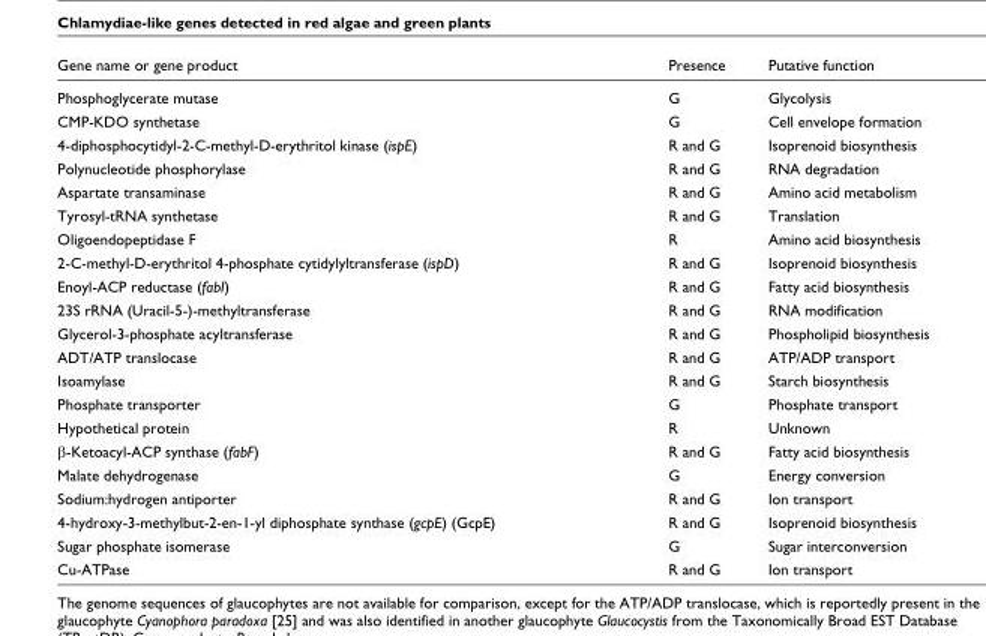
<table><thead><tr><td>Gene name or gene product</td><td>Presence</td><td>Putative function</td></tr></thead><tbody><tr><td>Phosphoglycerate mutase</td><td>G</td><td>Glycolysis</td></tr><tr><td>CMP-KDO synthetase</td><td>G</td><td>Cell envelope formation</td></tr><tr><td>4-diphosphocytidyl-2-C-methyl-D-erythritol kinase (ispE)</td><td>R and G</td><td>Isoprenoid biosynthesis</td></tr><tr><td>Polynucleotide phosphorylase</td><td>R and G</td><td>RNA degradation</td></tr><tr><td>Aspartate transaminase</td><td>R and G</td><td>Amino acid metabolism</td></tr><tr><td>Tyrosyl-tRNA synthetase</td><td>R and G</td><td>Translation</td></tr><tr><td>Oligoendopeptidase F</td><td>R</td><td>Amino acid biosynthesis</td></tr><tr><td>2-C-methyl-D-erythritol 4-phosphate cytidylyltransferase (ispD)</td><td>R and G</td><td>Isoprenoid biosynthesis</td></tr><tr><td>Enoyl-ACP reductase (fabI)</td><td>R and G</td><td>Fatty acid biosynthesis</td></tr><tr><td>23S rRNA (Uracil-5-)-methyltransferase</td><td>R and G</td><td>RNA modification</td></tr><tr><td>Glycerol-3-phosphate acyltransferase</td><td>R and G</td><td>Phospholipid biosynthesis</td></tr><tr><td>ADT/ATP translocase</td><td>R and G</td><td>ATP/ADP transport</td></tr><tr><td>Isoamylase</td><td>R and G</td><td>Starch biosynthesis</td></tr><tr><td>Phosphate transporter</td><td>G</td><td>Phosphate transport</td></tr><tr><td>Hypothetical protein</td><td>R</td><td>Unknown</td></tr><tr><td>β-Ketoacyl-ACP synthase (fabF)</td><td>R and G</td><td>Fatty acid biosynthesis</td></tr><tr><td>Malate dehydrogenase</td><td>G</td><td>Energy conversion</td></tr><tr><td>Sodium:hydrogen antiporter</td><td>R and G</td><td>Ion transport</td></tr><tr><td>4-hydroxy-3-methylbut-2-en-1-yl diphosphate synthase (gcpE) (GcpE)</td><td>R and G</td><td>Isoprenoid biosynthesis</td></tr><tr><td>Sugar phosphate isomerase</td><td>G</td><td>Sugar interconversion</td></tr><tr><td>Cu-ATPase</td><td>R and G</td><td>Ion transport</td></tr></tbody></table>